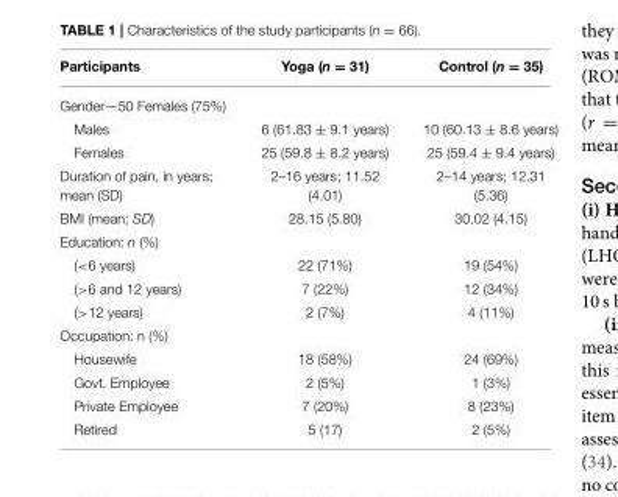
<table><thead><tr><td>Participants</td><td>Yoga (n = 31)</td><td>Control (n = 35)</td></tr></thead><tbody><tr><td colspan="3">Gender—50 Females (75%)</td></tr><tr><td>Males</td><td>6 (61.83 ± 9.1 years)</td><td>10 (60.13 ± 8.6 years)</td></tr><tr><td>Females</td><td>25 (59.8 ± 8.2 years)</td><td>25 (59.4 ± 9.4 years)</td></tr><tr><td>Duration of pain, in years; mean (SD)</td><td>2–16 years; 11.52 (4.01)</td><td>2–14 years; 12.31 (5.36)</td></tr><tr><td>BMI (mean; SD)</td><td>28.15 (5.80)</td><td>30.02 (4.15)</td></tr><tr><td colspan="3">Education: n (%)</td></tr><tr><td>(&lt;6 years)</td><td>22 (71%)</td><td>19 (54%)</td></tr><tr><td>(&gt;6 and 12 years)</td><td>7 (22%)</td><td>12 (34%)</td></tr><tr><td>(&gt;12 years)</td><td>2 (7%)</td><td>4 (11%)</td></tr><tr><td colspan="3">Occupation: n (%)</td></tr><tr><td>Housewife</td><td>18 (58%)</td><td>24 (69%)</td></tr><tr><td>Govt. Employee</td><td>2 (5%)</td><td>1 (3%)</td></tr><tr><td>Private Employee</td><td>7 (20%)</td><td>8 (23%)</td></tr><tr><td>Retired</td><td>5 (17)</td><td>2 (5%)</td></tr></tbody></table>